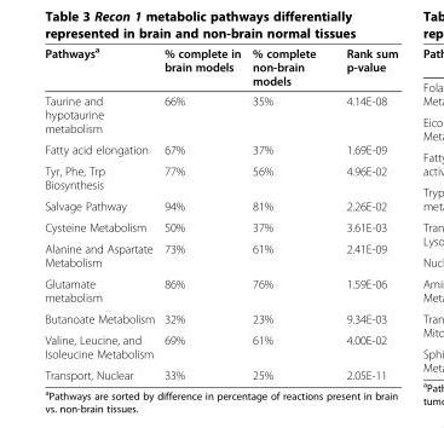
<table><thead><tr><td>Pathways<sup>a</sup></td><td>% complete in brain models</td><td>% complete non-brain models</td><td>Rank sum p-value</td></tr></thead><tbody><tr><td>Taurine and hypotaurine metabolism</td><td>66%</td><td>35%</td><td>4.14E-08</td></tr><tr><td>Fatty acid elongation</td><td>67%</td><td>37%</td><td>1.69E-09</td></tr><tr><td>Tyr, Phe, Trp Biosynthesis</td><td>77%</td><td>56%</td><td>4.96E-02</td></tr><tr><td>Salvage Pathway</td><td>94%</td><td>81%</td><td>2.26E-02</td></tr><tr><td>Cysteine Metabolism</td><td>50%</td><td>37%</td><td>3.61E-03</td></tr><tr><td>Alanine and Aspartate Metabolism</td><td>73%</td><td>61%</td><td>2.41E-09</td></tr><tr><td>Glutamate metabolism</td><td>86%</td><td>76%</td><td>1.59E-06</td></tr><tr><td>Butanoate Metabolism</td><td>32%</td><td>23%</td><td>9.34E-03</td></tr><tr><td>Valine, Leucine, and Isoleucine Metabolism</td><td>69%</td><td>61%</td><td>4.00E-02</td></tr><tr><td>Transport, Nuclear</td><td>33%</td><td>25%</td><td>2.05E-11</td></tr></tbody></table>